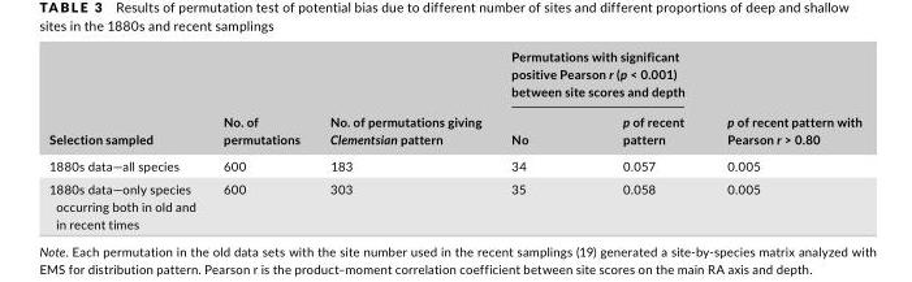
<table><thead><tr><td rowspan="2">Selection sampled</td><td rowspan="2">No. of permutations</td><td rowspan="2">No. of permutations giving Clementsian pattern</td><td colspan="2">Permutations with significant positive Pearson r (p &lt; 0.001) between site scores and depth</td><td rowspan="2">p of recent pattern with Pearson r &gt; 0.80</td></tr><tr><td>No</td><td>p of recent pattern</td></tr></thead><tbody><tr><td>1880s data—all species</td><td>600</td><td>183</td><td>34</td><td>0.057</td><td>0.005</td></tr><tr><td>1880s data—only species occurring both in old and in recent times</td><td>600</td><td>303</td><td>35</td><td>0.058</td><td>0.005</td></tr></tbody></table>